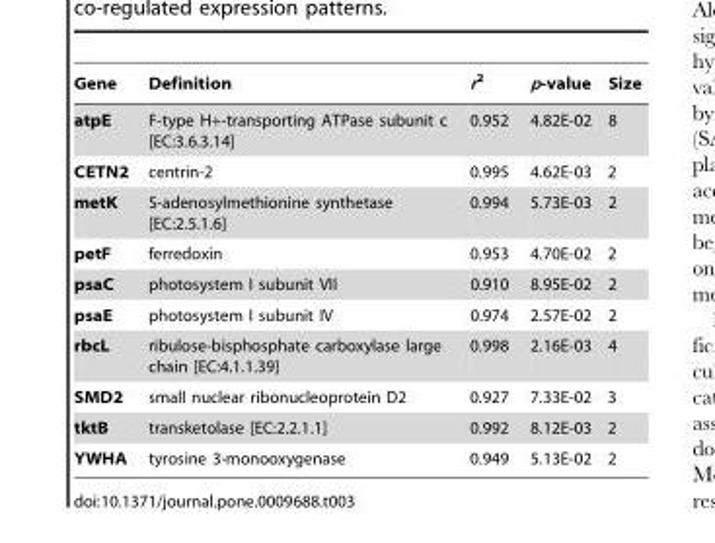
<table><thead><tr><td>Gene</td><td>Definition</td><td>r<sup>2</sup></td><td>p-value</td><td>Size</td></tr></thead><tbody><tr><td>atpE</td><td>F-type H+-transporting ATPase subunit c [EC:3.6.3.14]</td><td>0.952</td><td>4.82E-02</td><td>8</td></tr><tr><td>CETN2</td><td>centrin-2</td><td>0.995</td><td>4.62E-03</td><td>2</td></tr><tr><td>metK</td><td>S-adenosylmethionine synthetase [EC:2.5.1.6]</td><td>0.994</td><td>5.73E-03</td><td>2</td></tr><tr><td>petF</td><td>ferredoxin</td><td>0.953</td><td>4.70E-02</td><td>2</td></tr><tr><td>psaC</td><td>photosystem I subunit VII</td><td>0.910</td><td>8.95E-02</td><td>2</td></tr><tr><td>psaE</td><td>photosystem I subunit IV</td><td>0.974</td><td>2.57E-02</td><td>2</td></tr><tr><td>rbcL</td><td>ribulose-bisphosphate carboxylase large chain [EC:4.1.1.39]</td><td>0.998</td><td>2.16E-03</td><td>4</td></tr><tr><td>SMD2</td><td>small nuclear ribonucleoprotein D2</td><td>0.927</td><td>7.33E-02</td><td>3</td></tr><tr><td>tktB</td><td>transketolase [EC:2.2.1.1]</td><td>0.992</td><td>8.12E-03</td><td>2</td></tr><tr><td>YWHA</td><td>tyrosine 3-monooxygenase</td><td>0.949</td><td>5.13E-02</td><td>2</td></tr></tbody></table>